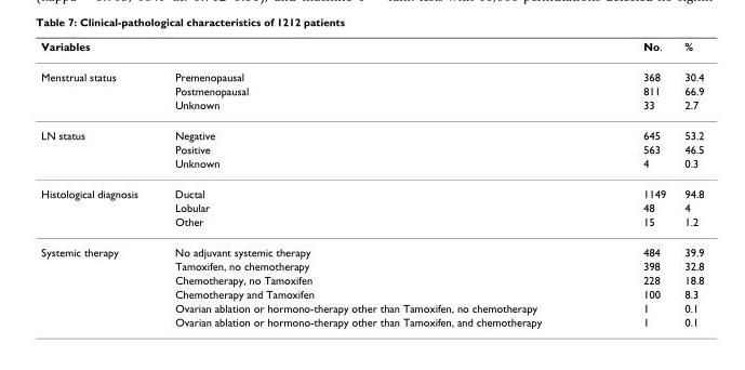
<table><thead><tr><td>Variables</td><td></td><td>No.</td><td>%</td></tr></thead><tbody><tr><td rowspan="3">Menstrual status</td><td>Premenopausal</td><td>368</td><td>30.4</td></tr><tr><td>Postmenopausal</td><td>811</td><td>66.9</td></tr><tr><td>Unknown</td><td>33</td><td>2.7</td></tr><tr><td rowspan="3">LN status</td><td>Negative</td><td>645</td><td>53.2</td></tr><tr><td>Positive</td><td>563</td><td>46.5</td></tr><tr><td>Unknown</td><td>4</td><td>0.3</td></tr><tr><td rowspan="3">Histological diagnosis</td><td>Ductal</td><td>1149</td><td>94.8</td></tr><tr><td>Lobular</td><td>48</td><td>4</td></tr><tr><td>Other</td><td>15</td><td>1.2</td></tr><tr><td rowspan="6">Systemic therapy</td><td>No adjuvant systemic therapy</td><td>484</td><td>39.9</td></tr><tr><td>Tamoxifen, no chemotherapy</td><td>398</td><td>32.8</td></tr><tr><td>Chemotherapy, no Tamoxifen</td><td>228</td><td>18.8</td></tr><tr><td>Chemotherapy and Tamoxifen</td><td>100</td><td>8.3</td></tr><tr><td>Ovarian ablation or hormono-therapy other than Tamoxifen, no chemotherapy</td><td>1</td><td>0.1</td></tr><tr><td>Ovarian ablation or hormono-therapy other than Tamoxifen, and chemotherapy</td><td>1</td><td>0.1</td></tr></tbody></table>